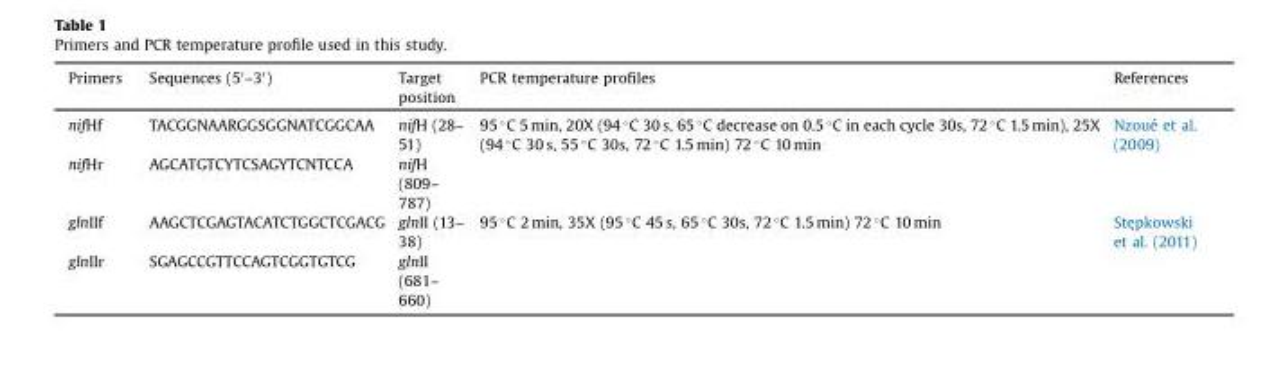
<table><thead><tr><td>Primers</td><td>Sequences (5′–3′)</td><td>Target position</td><td>PCR temperature profiles</td><td>References</td></tr></thead><tbody><tr><td>nifHf</td><td>TACGGNAARGGSGGNATCGGCAA</td><td>nifH (28– 51)</td><td rowspan="2">95 °C 5 min, 20X (94 °C 30 s, 65 °C decrease on 0.5 °C in each cycle 30s, 72 °C 1.5 min), 25X (94 °C 30 s, 55 °C 30s, 72 °C 1.5 min) 72 °C 10 min</td><td rowspan="2">Nzoué et al. (2009)</td></tr><tr><td>nifHr</td><td>AGCATGTCYTCSAGYTCNTCCA</td><td>nifH (809– 787)</td></tr><tr><td>glnIIf</td><td>AAGCTCGAGTACATCTGGCTCGACG</td><td>glnII (13– 38)</td><td rowspan="2">95 °C 2 min, 35X (95 °C 45 s, 65 °C 30s, 72 °C 1.5 min) 72 °C 10 min</td><td rowspan="2">Ste˛pkowski et al. (2011)</td></tr><tr><td>glnIIr</td><td>SGAGCCGTTCCAGTCGGTGTCG</td><td>glnII (681– 660)</td></tr></tbody></table>